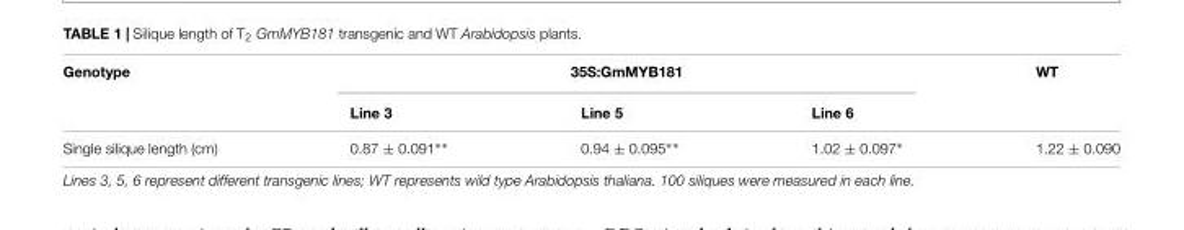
<table><thead><tr><td rowspan="2">Genotype</td><td colspan="3">35S:GmMYB181</td><td rowspan="2">WT</td></tr><tr><td>Line 3</td><td>Line 5</td><td>Line 6</td></tr></thead><tbody><tr><td>Single silique length (cm)</td><td>0.87 ± 0.091∗∗</td><td>0.94 ± 0.095∗∗</td><td>1.02 ± 0.097∗</td><td>1.22 ± 0.090</td></tr></tbody></table>